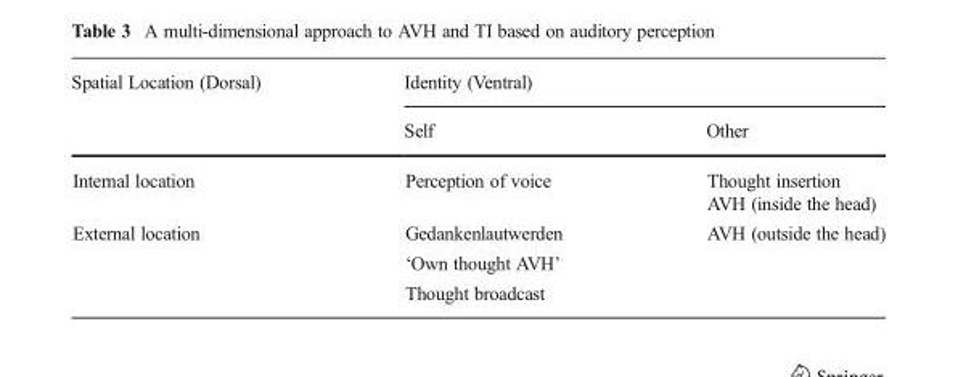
<table><thead><tr><td rowspan="2">Spatial Location (Dorsal)</td><td colspan="2">Identity (Ventral)</td></tr><tr><td>Self</td><td>Other</td></tr></thead><tbody><tr><td>Internal location</td><td>Perception of voice</td><td>Thought insertion AVH (inside the head)</td></tr><tr><td rowspan="3">External location</td><td>Gedankenlautwerden</td><td rowspan="3">AVH (outside the head)</td></tr><tr><td>‘Own thought AVH’</td></tr><tr><td>Thought broadcast</td></tr></tbody></table>